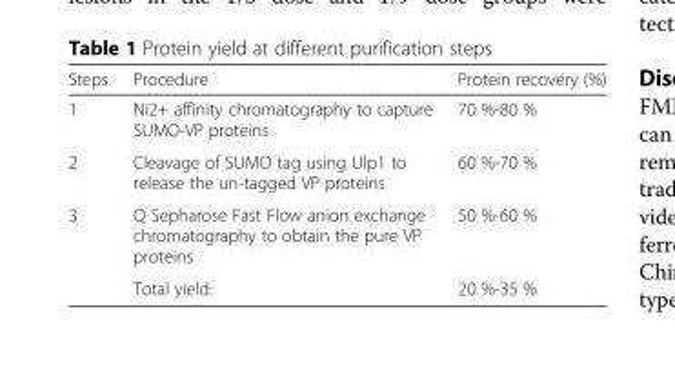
<table><thead><tr><td>Steps</td><td>Procedure</td><td>Protein recovery (%)</td></tr></thead><tbody><tr><td>1</td><td>Ni2+ affinity chromatography to capture SUMO-VP proteins</td><td>70 %-80 %</td></tr><tr><td>2</td><td>Cleavage of SUMO tag using Ulp1 to release the un-tagged VP proteins</td><td>60 %-70 %</td></tr><tr><td rowspan="2">3</td><td>Q Sepharose Fast Flow anion exchange chromatography to obtain the pure VP proteins</td><td>50 %-60 %</td></tr><tr><td>Total yield:</td><td>20 %-35 %</td></tr></tbody></table>